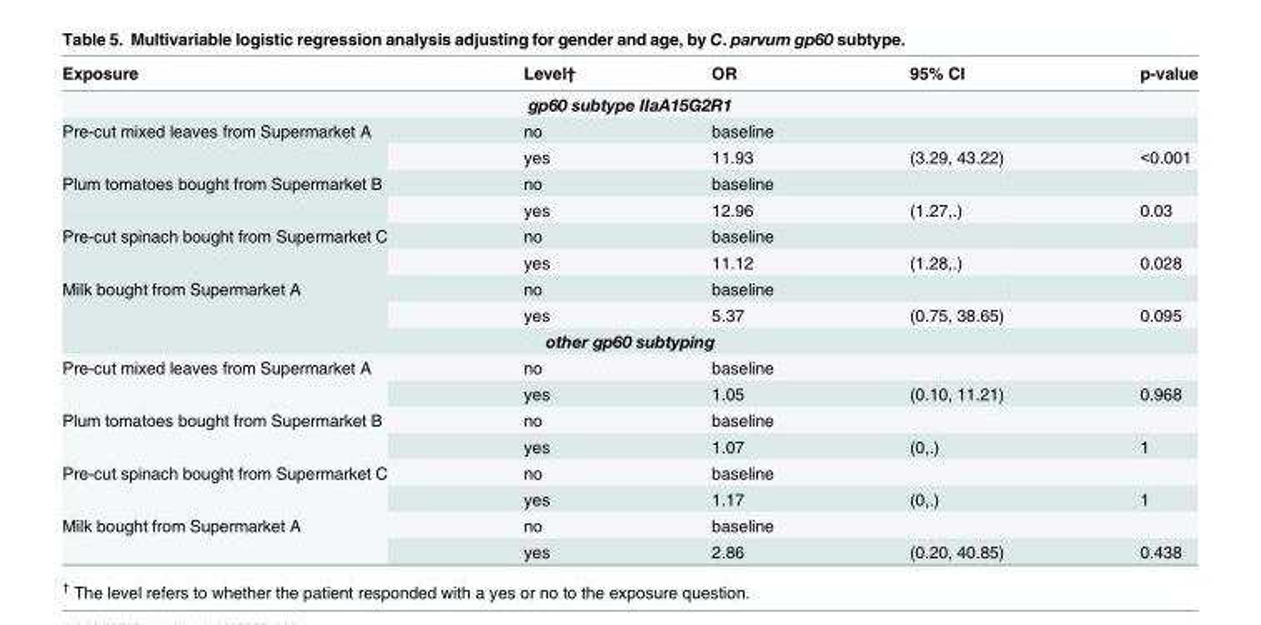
<table><thead><tr><td>Exposure</td><td>Level†</td><td>OR</td><td>95% CI</td><td>p-value</td></tr></thead><tbody><tr><td colspan="5">gp60 subtype IIaA15G2R1</td></tr><tr><td rowspan="2">Pre-cut mixed leaves from Supermarket A</td><td>no</td><td>baseline</td><td></td><td></td></tr><tr><td>yes</td><td>11.93</td><td>(3.29, 43.22)</td><td>&lt;0.001</td></tr><tr><td rowspan="2">Plum tomatoes bought from Supermarket B</td><td>no</td><td>baseline</td><td></td><td></td></tr><tr><td>yes</td><td>12.96</td><td>(1.27,.)</td><td>0.03</td></tr><tr><td rowspan="2">Pre-cut spinach bought from Supermarket C</td><td>no</td><td>baseline</td><td></td><td></td></tr><tr><td>yes</td><td>11.12</td><td>(1.28,.)</td><td>0.028</td></tr><tr><td rowspan="2">Milk bought from Supermarket A</td><td>no</td><td>baseline</td><td></td><td></td></tr><tr><td>yes</td><td>5.37</td><td>(0.75, 38.65)</td><td>0.095</td></tr><tr><td colspan="5">other gp60 subtyping</td></tr><tr><td rowspan="2">Pre-cut mixed leaves from Supermarket A</td><td>no</td><td>baseline</td><td></td><td></td></tr><tr><td>yes</td><td>1.05</td><td>(0.10, 11.21)</td><td>0.968</td></tr><tr><td rowspan="2">Plum tomatoes bought from Supermarket B</td><td>no</td><td>baseline</td><td></td><td></td></tr><tr><td>yes</td><td>1.07</td><td>(0,.)</td><td>1</td></tr><tr><td rowspan="2">Pre-cut spinach bought from Supermarket C</td><td>no</td><td>baseline</td><td></td><td></td></tr><tr><td>yes</td><td>1.17</td><td>(0,.)</td><td>1</td></tr><tr><td rowspan="2">Milk bought from Supermarket A</td><td>no</td><td>baseline</td><td></td><td></td></tr><tr><td>yes</td><td>2.86</td><td>(0.20, 40.85)</td><td>0.438</td></tr></tbody></table>